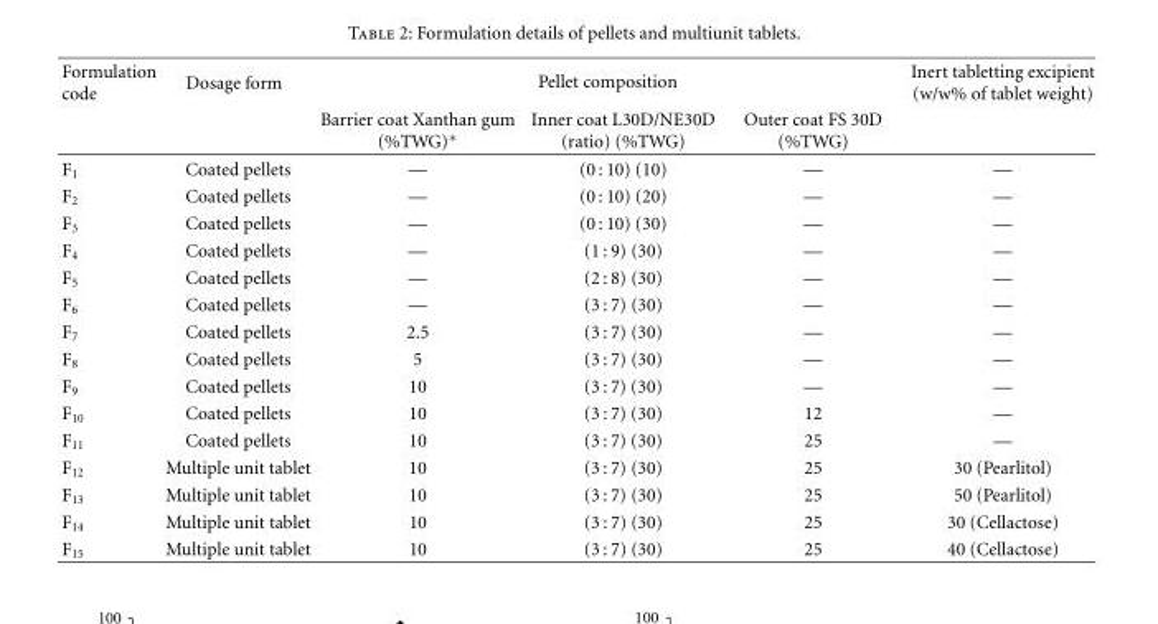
<table><thead><tr><td rowspan="2">Formulation code</td><td rowspan="2">Dosage form</td><td colspan="3">Pellet composition</td><td rowspan="2">Inert tabletting excipient (w/w% of tablet weight)</td></tr><tr><td>Barrier coat Xanthan gum (%TWG)∗</td><td>Inner coat L30D/NE30D (ratio) (%TWG)</td><td>Outer coat FS 30D (%TWG)</td></tr></thead><tbody><tr><td>F<sub>1</sub></td><td>Coated pellets</td><td>—</td><td>(0 : 10) (10)</td><td>—</td><td>—</td></tr><tr><td>F<sub>2</sub></td><td>Coated pellets</td><td>—</td><td>(0 : 10) (20)</td><td>—</td><td>—</td></tr><tr><td>F<sub>3</sub></td><td>Coated pellets</td><td>—</td><td>(0 : 10) (30)</td><td>—</td><td>—</td></tr><tr><td>F<sub>4</sub></td><td>Coated pellets</td><td>—</td><td>(1 : 9) (30)</td><td>—</td><td>—</td></tr><tr><td>F<sub>5</sub></td><td>Coated pellets</td><td>—</td><td>(2 : 8) (30)</td><td>—</td><td>—</td></tr><tr><td>F<sub>6</sub></td><td>Coated pellets</td><td>—</td><td>(3 : 7) (30)</td><td>—</td><td>—</td></tr><tr><td>F<sub>7</sub></td><td>Coated pellets</td><td>2.5</td><td>(3 : 7) (30)</td><td>—</td><td>—</td></tr><tr><td>F<sub>8</sub></td><td>Coated pellets</td><td>5</td><td>(3 : 7) (30)</td><td>—</td><td>—</td></tr><tr><td>F<sub>9</sub></td><td>Coated pellets</td><td>10</td><td>(3 : 7) (30)</td><td>—</td><td>—</td></tr><tr><td>F<sub>10</sub></td><td>Coated pellets</td><td>10</td><td>(3 : 7) (30)</td><td>12</td><td>—</td></tr><tr><td>F<sub>11</sub></td><td>Coated pellets</td><td>10</td><td>(3 : 7) (30)</td><td>25</td><td>—</td></tr><tr><td>F<sub>12</sub></td><td>Multiple unit tablet</td><td>10</td><td>(3 : 7) (30)</td><td>25</td><td>30 (Pearlitol)</td></tr><tr><td>F<sub>13</sub></td><td>Multiple unit tablet</td><td>10</td><td>(3 : 7) (30)</td><td>25</td><td>50 (Pearlitol)</td></tr><tr><td>F<sub>14</sub></td><td>Multiple unit tablet</td><td>10</td><td>(3 : 7) (30)</td><td>25</td><td>30 (Cellactose)</td></tr><tr><td>F<sub>15</sub></td><td>Multiple unit tablet</td><td>10</td><td>(3 : 7) (30)</td><td>25</td><td>40 (Cellactose)</td></tr></tbody></table>